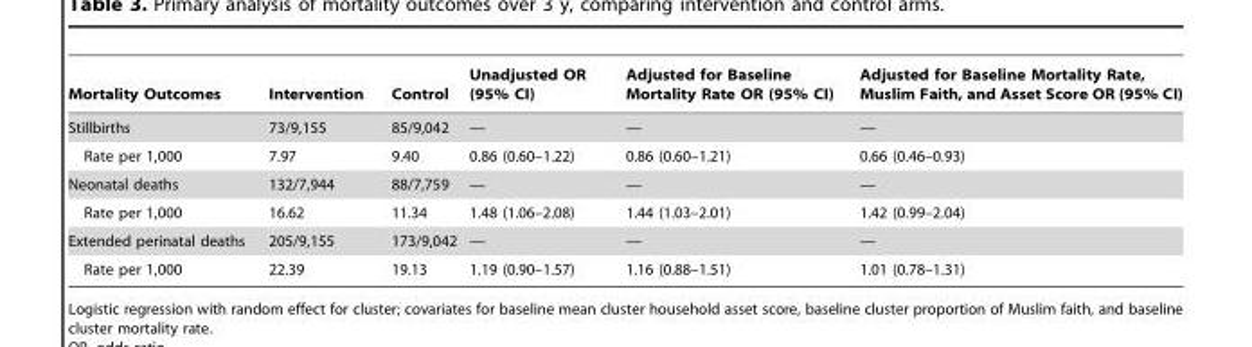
<table><thead><tr><td>Mortality Outcomes</td><td>Intervention</td><td>Control</td><td>Unadjusted OR (95% CI)</td><td>Adjusted for Baseline Mortality Rate OR (95% CI)</td><td>Adjusted for Baseline Mortality Rate, Muslim Faith, and Asset Score OR (95% CI)</td></tr></thead><tbody><tr><td>Stillbirths</td><td>73/9,155</td><td>85/9,042</td><td>—</td><td>—</td><td>—</td></tr><tr><td>Rate per 1,000</td><td>7.97</td><td>9.40</td><td>0.86 (0.60–1.22)</td><td>0.86 (0.60–1.21)</td><td>0.66 (0.46–0.93)</td></tr><tr><td>Neonatal deaths</td><td>132/7,944</td><td>88/7,759</td><td>—</td><td>—</td><td>—</td></tr><tr><td>Rate per 1,000</td><td>16.62</td><td>11.34</td><td>1.48 (1.06–2.08)</td><td>1.44 (1.03–2.01)</td><td>1.42 (0.99–2.04)</td></tr><tr><td>Extended perinatal deaths</td><td>205/9,155</td><td>173/9,042</td><td>—</td><td>—</td><td>—</td></tr><tr><td>Rate per 1,000</td><td>22.39</td><td>19.13</td><td>1.19 (0.90–1.57)</td><td>1.16 (0.88–1.51)</td><td>1.01 (0.78–1.31)</td></tr></tbody></table>